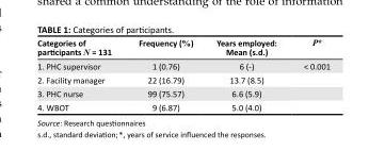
<table><thead><tr><td>Categories of participants N = 131</td><td>Frequency (%)</td><td>Years employed: Mean (s.d.)</td><td>P*</td></tr></thead><tbody><tr><td>1. PHC supervisor</td><td>1 (0.76)</td><td>6 (-)</td><td>&lt; 0.001</td></tr><tr><td>2. Facility manager</td><td>22 (16.79)</td><td>13.7 (8.5)</td><td></td></tr><tr><td>3. PHC nurse</td><td>99 (75.57)</td><td>6.6 (5.9)</td><td></td></tr><tr><td>4. WBOT</td><td>9 (6.87)</td><td>5.0 (4.0)</td><td></td></tr></tbody></table>